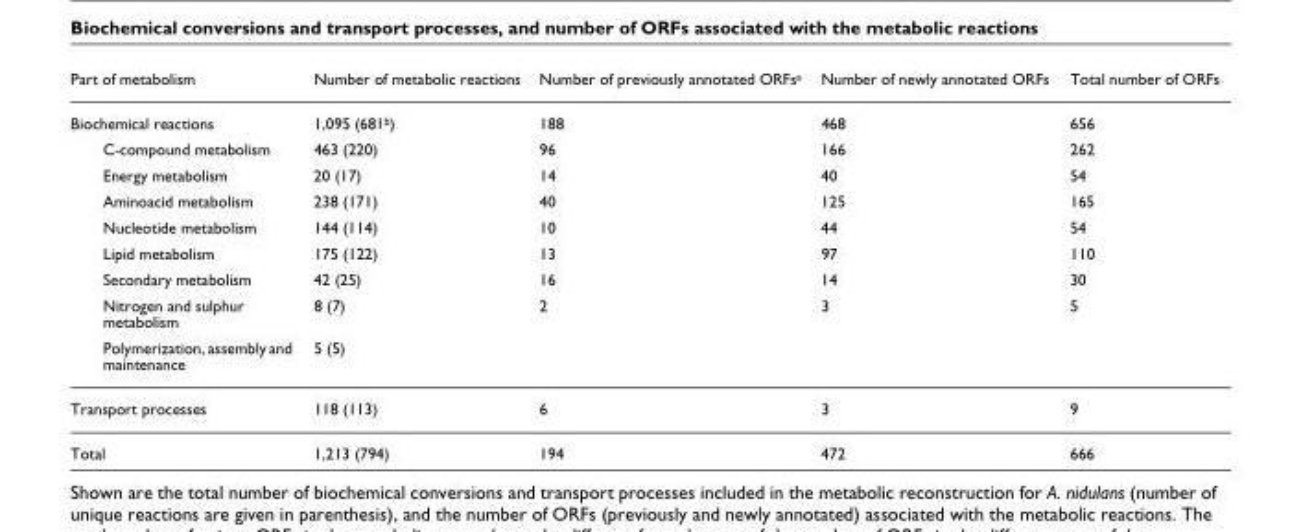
<table><thead><tr><td>Part of metabolism</td><td>Number of metabolic reactions</td><td>Number of previously annotated ORFsa</td><td>Number of newly annotated ORFs</td><td>Total number of ORFs</td></tr></thead><tbody><tr><td>Biochemical reactions</td><td>1,095 (681b)</td><td>188</td><td>468</td><td>656</td></tr><tr><td>C-compound metabolism</td><td>463 (220)</td><td>96</td><td>166</td><td>262</td></tr><tr><td>Energy metabolism</td><td>20 (17)</td><td>14</td><td>40</td><td>54</td></tr><tr><td>Aminoacid metabolism</td><td>238 (171)</td><td>40</td><td>125</td><td>165</td></tr><tr><td>Nucleotide metabolism</td><td>144 (114)</td><td>10</td><td>44</td><td>54</td></tr><tr><td>Lipid metabolism</td><td>175 (122)</td><td>13</td><td>97</td><td>110</td></tr><tr><td>Secondary metabolism</td><td>42 (25)</td><td>16</td><td>14</td><td>30</td></tr><tr><td>Nitrogen and sulphur metabolism</td><td>8 (7)</td><td>2</td><td>3</td><td>5</td></tr><tr><td>Polymerization, assembly and maintenance</td><td>5 (5)</td><td></td><td></td><td></td></tr><tr><td>Transport processes</td><td>118 (113)</td><td>6</td><td>3</td><td>9</td></tr><tr><td>Total</td><td>1,213 (794)</td><td>194</td><td>472</td><td>666</td></tr></tbody></table>